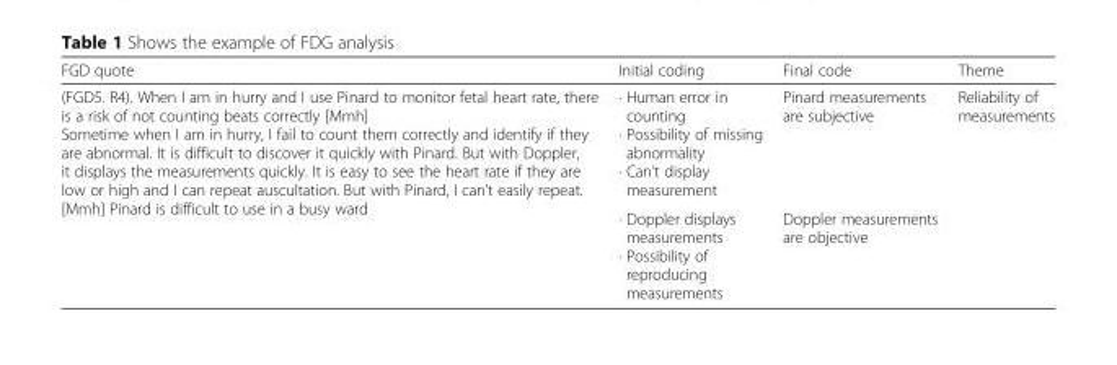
<table><thead><tr><td>FGD quote</td><td>Initial coding</td><td>Final code</td><td>Theme</td></tr></thead><tbody><tr><td rowspan="2">(FGD5. R4). When I am in hurry and I use Pinard to monitor fetal heart rate, there is a risk of not counting beats correctly [Mmh] Sometime when I am in hurry, I fail to count them correctly and identify if they are abnormal. It is difficult to discover it quickly with Pinard. But with Doppler, it displays the measurements quickly. It is easy to see the heart rate if they are low or high and I can repeat auscultation. But with Pinard, I can’t easily repeat. [Mmh] Pinard is difficult to use in a busy ward</td><td>∙ Human error in counting ∙ Possibility of missing abnormality ∙ Can’t display measurement</td><td>Pinard measurements are subjective</td><td rowspan="2">Reliability of measurements</td></tr><tr><td>∙ Doppler displays measurements ∙ Possibility of reproducing measurements</td><td>Doppler measurements are objective</td></tr></tbody></table>